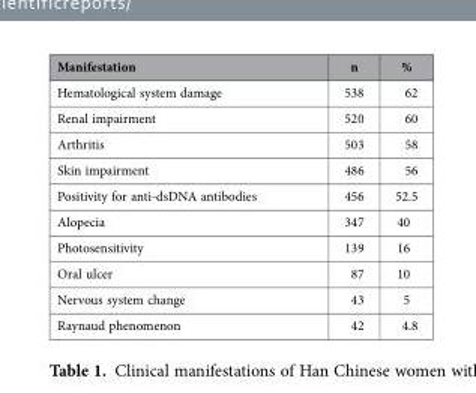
<table><thead><tr><td>Manifestation</td><td>n</td><td>%</td></tr></thead><tbody><tr><td>Hematological system damage</td><td>538</td><td>62</td></tr><tr><td>Renal impairment</td><td>520</td><td>60</td></tr><tr><td>Arthritis</td><td>503</td><td>58</td></tr><tr><td>Skin impairment</td><td>486</td><td>56</td></tr><tr><td>Positivity for anti-dsDNA antibodies</td><td>456</td><td>52.5</td></tr><tr><td>Alopecia</td><td>347</td><td>40</td></tr><tr><td>Photosensitivity</td><td>139</td><td>16</td></tr><tr><td>Oral ulcer</td><td>87</td><td>10</td></tr><tr><td>Nervous system change</td><td>43</td><td>5</td></tr><tr><td>Raynaud phenomenon</td><td>42</td><td>4.8</td></tr></tbody></table>